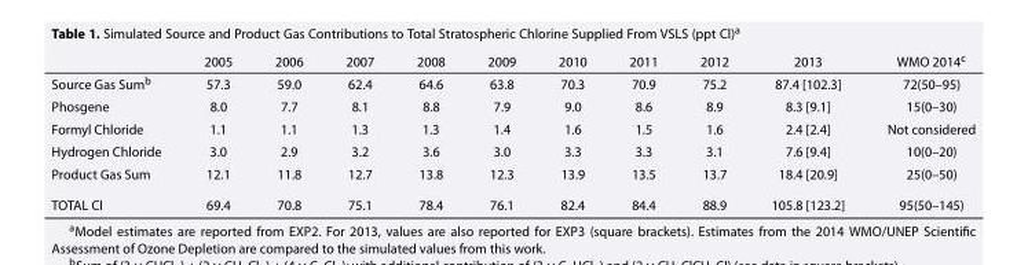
<table><thead><tr><td></td><td>2005</td><td>2006</td><td>2007</td><td>2008</td><td>2009</td><td>2010</td><td>2011</td><td>2012</td><td>2013</td><td>WMO 2014<sup>c</sup></td></tr></thead><tbody><tr><td>Source Gas Sum<sup>b</sup></td><td>57.3</td><td>59.0</td><td>62.4</td><td>64.6</td><td>63.8</td><td>70.3</td><td>70.9</td><td>75.2</td><td>87.4 [102.3]</td><td>72(50–95)</td></tr><tr><td>Phosgene</td><td>8.0</td><td>7.7</td><td>8.1</td><td>8.8</td><td>7.9</td><td>9.0</td><td>8.6</td><td>8.9</td><td>8.3 [9.1]</td><td>15(0–30)</td></tr><tr><td>Formyl Chloride</td><td>1.1</td><td>1.1</td><td>1.3</td><td>1.3</td><td>1.4</td><td>1.6</td><td>1.5</td><td>1.6</td><td>2.4 [2.4]</td><td>Not considered</td></tr><tr><td>Hydrogen Chloride</td><td>3.0</td><td>2.9</td><td>3.2</td><td>3.6</td><td>3.0</td><td>3.3</td><td>3.3</td><td>3.1</td><td>7.6 [9.4]</td><td>10(0–20)</td></tr><tr><td>Product Gas Sum</td><td>12.1</td><td>11.8</td><td>12.7</td><td>13.8</td><td>12.3</td><td>13.9</td><td>13.5</td><td>13.7</td><td>18.4 [20.9]</td><td>25(0–50)</td></tr><tr><td>TOTAL Cl</td><td>69.4</td><td>70.8</td><td>75.1</td><td>78.4</td><td>76.1</td><td>82.4</td><td>84.4</td><td>88.9</td><td>105.8 [123.2]</td><td>95(50–145)</td></tr></tbody></table>